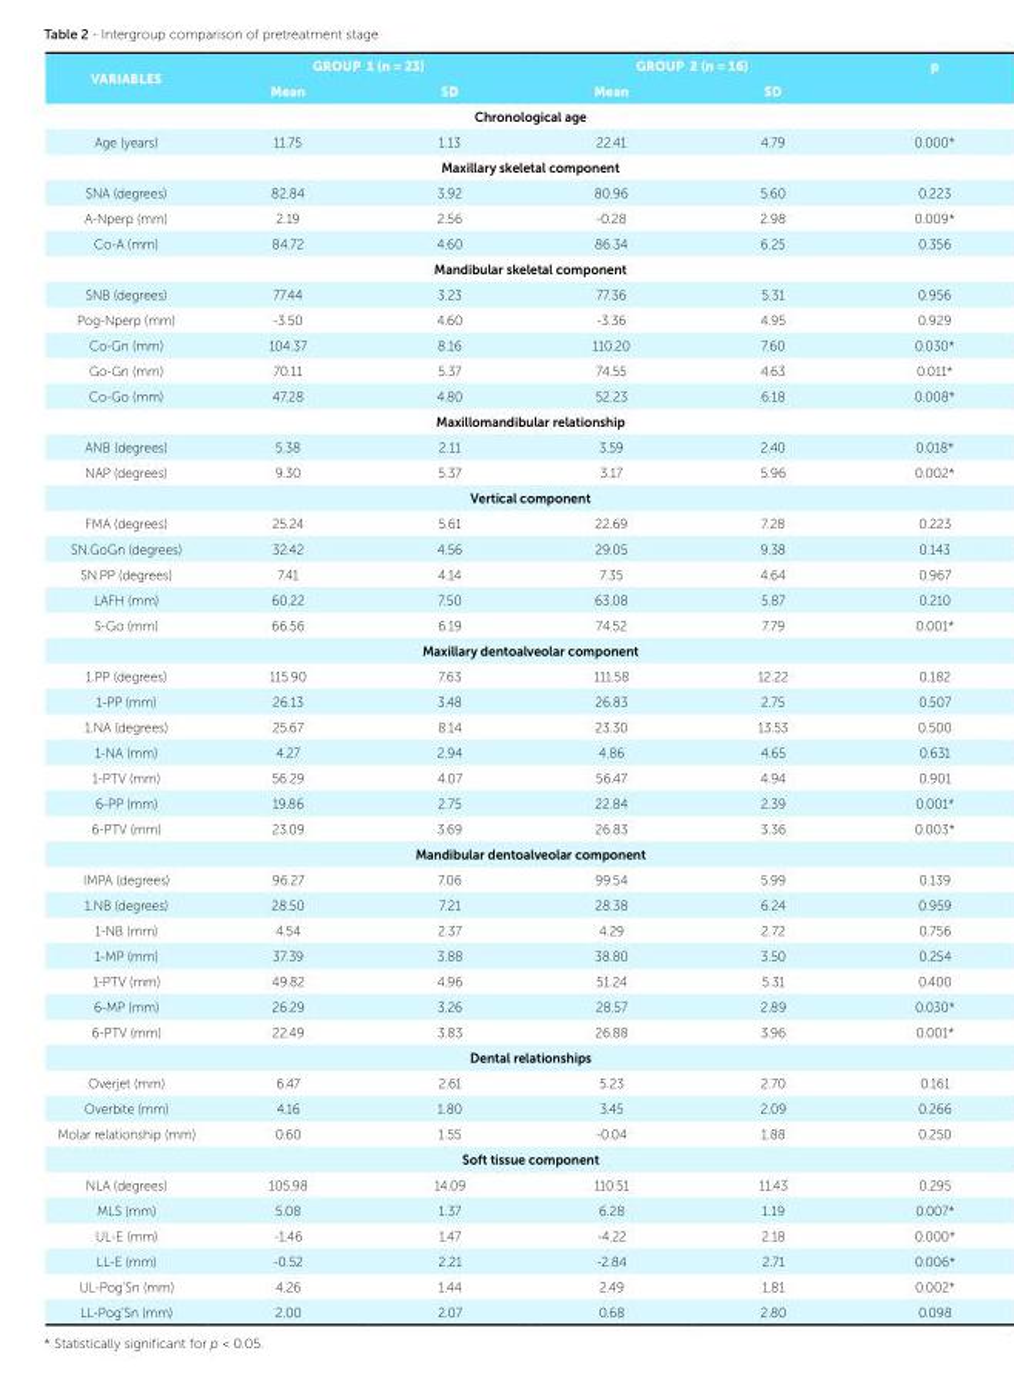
<table><tbody><tr><td rowspan="2">VARIABLES</td><td colspan="2">GROUP 1 (n = 23)</td><td colspan="2">GROUP 2 (n = 16)</td><td>p</td></tr><tr><td>Mean</td><td>SD</td><td>Mean</td><td>SD</td><td></td></tr><tr><td colspan="6">Chronological age</td></tr><tr><td>Age (years)</td><td>11.75</td><td>1.13</td><td>22.41</td><td>4.79</td><td>0.000*</td></tr><tr><td colspan="6">Maxillary skeletal component</td></tr><tr><td>SNA (degrees)</td><td>82.84</td><td>3.92</td><td>80.96</td><td>5.60</td><td>0.223</td></tr><tr><td>A-Nperp (mm)</td><td>2.19</td><td>2.56</td><td>-0.28</td><td>2.98</td><td>0.009*</td></tr><tr><td>Co-A (mm)</td><td>84.72</td><td>4.60</td><td>86.34</td><td>6.25</td><td>0.356</td></tr><tr><td colspan="6">Mandibular skeletal component</td></tr><tr><td>SNB (degrees)</td><td>77.44</td><td>3.23</td><td>77.36</td><td>5.31</td><td>0.956</td></tr><tr><td>Pog-Nperp (mm)</td><td>-3.50</td><td>4.60</td><td>-3.36</td><td>4.95</td><td>0.929</td></tr><tr><td>Co-Gn (mm)</td><td>104.37</td><td>8.16</td><td>110.20</td><td>7.60</td><td>0.030*</td></tr><tr><td>Go-Gn (mm)</td><td>70.11</td><td>5.37</td><td>74.55</td><td>4.63</td><td>0.011*</td></tr><tr><td>Co-Go (mm)</td><td>47.28</td><td>4.80</td><td>52.23</td><td>6.18</td><td>0.008*</td></tr><tr><td colspan="6">Maxillomandibular relationship</td></tr><tr><td>ANB (degrees)</td><td>5.38</td><td>2.11</td><td>3.59</td><td>2.40</td><td>0.018*</td></tr><tr><td>NAP (degrees)</td><td>9.30</td><td>5.37</td><td>3.17</td><td>5.96</td><td>0.002*</td></tr><tr><td colspan="6">Vertical component</td></tr><tr><td>FMA (degrees)</td><td>25.24</td><td>5.61</td><td>22.69</td><td>7.28</td><td>0.223</td></tr><tr><td>SN.GoGn (degrees)</td><td>32.42</td><td>4.56</td><td>29.05</td><td>9.38</td><td>0.143</td></tr><tr><td>SN.PP (degrees)</td><td>7.41</td><td>4.14</td><td>7.35</td><td>4.64</td><td>0.967</td></tr><tr><td>LAFH (mm)</td><td>60.22</td><td>7.50</td><td>63.08</td><td>5.87</td><td>0.210</td></tr><tr><td>S-Go (mm)</td><td>66.56</td><td>6.19</td><td>74.52</td><td>7.79</td><td>0.001*</td></tr><tr><td colspan="6">Maxillary dentoalveolar component</td></tr><tr><td>1.PP (degrees)</td><td>115.90</td><td>7.63</td><td>111.58</td><td>12.22</td><td>0.182</td></tr><tr><td>1-PP (mm)</td><td>26.13</td><td>3.48</td><td>26.83</td><td>2.75</td><td>0.507</td></tr><tr><td>1.NA (degrees)</td><td>25.67</td><td>8.14</td><td>23.30</td><td>13.53</td><td>0.500</td></tr><tr><td>1-NA (mm)</td><td>4.27</td><td>2.94</td><td>4.86</td><td>4.65</td><td>0.631</td></tr><tr><td>1-PTV (mm)</td><td>56.29</td><td>4.07</td><td>56.47</td><td>4.94</td><td>0.901</td></tr><tr><td>6-PP (mm)</td><td>19.86</td><td>2.75</td><td>22.84</td><td>2.39</td><td>0.001*</td></tr><tr><td>6-PTV (mm)</td><td>23.09</td><td>3.69</td><td>26.83</td><td>3.36</td><td>0.003*</td></tr><tr><td colspan="6">Mandibular dentoalveolar component</td></tr><tr><td>IMPA (degrees)</td><td>96.27</td><td>7.06</td><td>99.54</td><td>5.99</td><td>0.139</td></tr><tr><td>1.NB (degrees)</td><td>28.50</td><td>7.21</td><td>28.38</td><td>6.24</td><td>0.959</td></tr><tr><td>1-NB (mm)</td><td>4.54</td><td>2.37</td><td>4.29</td><td>2.72</td><td>0.756</td></tr><tr><td>1-MP (mm)</td><td>37.39</td><td>3.88</td><td>38.80</td><td>3.50</td><td>0.254</td></tr><tr><td>1-PTV (mm)</td><td>49.82</td><td>4.96</td><td>51.24</td><td>5.31</td><td>0.400</td></tr><tr><td>6-MP (mm)</td><td>26.29</td><td>3.26</td><td>28.57</td><td>2.89</td><td>0.030*</td></tr><tr><td>6-PTV (mm)</td><td>22.49</td><td>3.83</td><td>26.88</td><td>3.96</td><td>0.001*</td></tr><tr><td colspan="6">Dental relationships</td></tr><tr><td>Overjet (mm)</td><td>6.47</td><td>2.61</td><td>5.23</td><td>2.70</td><td>0.161</td></tr><tr><td>Overbite (mm)</td><td>4.16</td><td>1.80</td><td>3.45</td><td>2.09</td><td>0.266</td></tr><tr><td>Molar relationship (mm)</td><td>0.60</td><td>1.55</td><td>-0.04</td><td>1.88</td><td>0.250</td></tr><tr><td colspan="6">Soft tissue component</td></tr><tr><td>NLA (degrees)</td><td>105.98</td><td>14.09</td><td>110.51</td><td>11.43</td><td>0.295</td></tr><tr><td>MLS (mm)</td><td>5.08</td><td>1.37</td><td>6.28</td><td>1.19</td><td>0.007*</td></tr><tr><td>UL-E (mm)</td><td>-1.46</td><td>1.47</td><td>-4.22</td><td>2.18</td><td>0.000*</td></tr><tr><td>LL-E (mm)</td><td>-0.52</td><td>2.21</td><td>-2.84</td><td>2.71</td><td>0.006*</td></tr><tr><td>UL-Pog’Sn (mm)</td><td>4.26</td><td>1.44</td><td>2.49</td><td>1.81</td><td>0.002*</td></tr><tr><td>LL-Pog’Sn (mm)</td><td>2.00</td><td>2.07</td><td>0.68</td><td>2.80</td><td>0.098</td></tr></tbody></table>